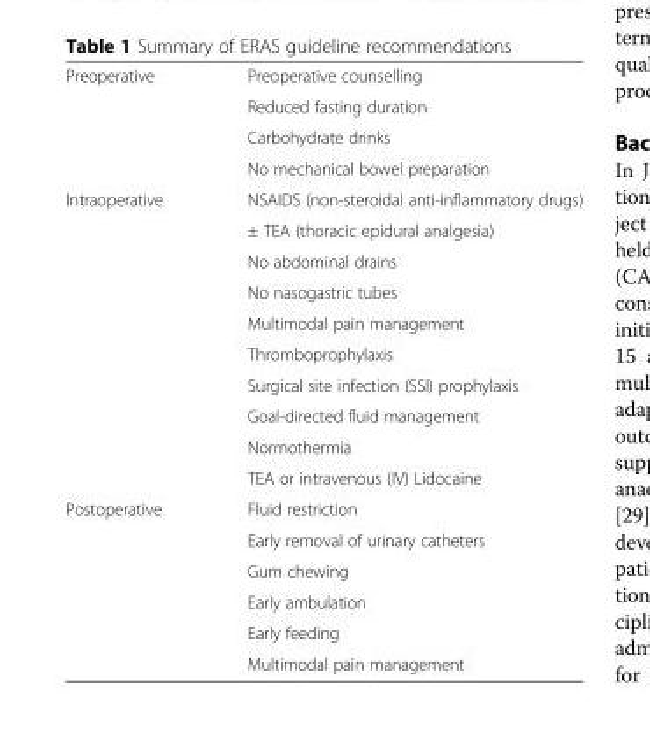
<table><tbody><tr><td rowspan="4">Preoperative</td><td>Preoperative counselling</td></tr><tr><td>Reduced fasting duration</td></tr><tr><td>Carbohydrate drinks</td></tr><tr><td>No mechanical bowel preparation</td></tr><tr><td rowspan="10">Intraoperative</td><td>NSAIDS (non-steroidal anti-inflammatory drugs)</td></tr><tr><td>± TEA (thoracic epidural analgesia)</td></tr><tr><td>No abdominal drains</td></tr><tr><td>No nasogastric tubes</td></tr><tr><td>Multimodal pain management</td></tr><tr><td>Thromboprophylaxis</td></tr><tr><td>Surgical site infection (SSI) prophylaxis</td></tr><tr><td>Goal-directed fluid management</td></tr><tr><td>Normothermia</td></tr><tr><td>TEA or intravenous (IV) Lidocaine</td></tr><tr><td rowspan="6">Postoperative</td><td>Fluid restriction</td></tr><tr><td>Early removal of urinary catheters</td></tr><tr><td>Gum chewing</td></tr><tr><td>Early ambulation</td></tr><tr><td>Early feeding</td></tr><tr><td>Multimodal pain management</td></tr></tbody></table>